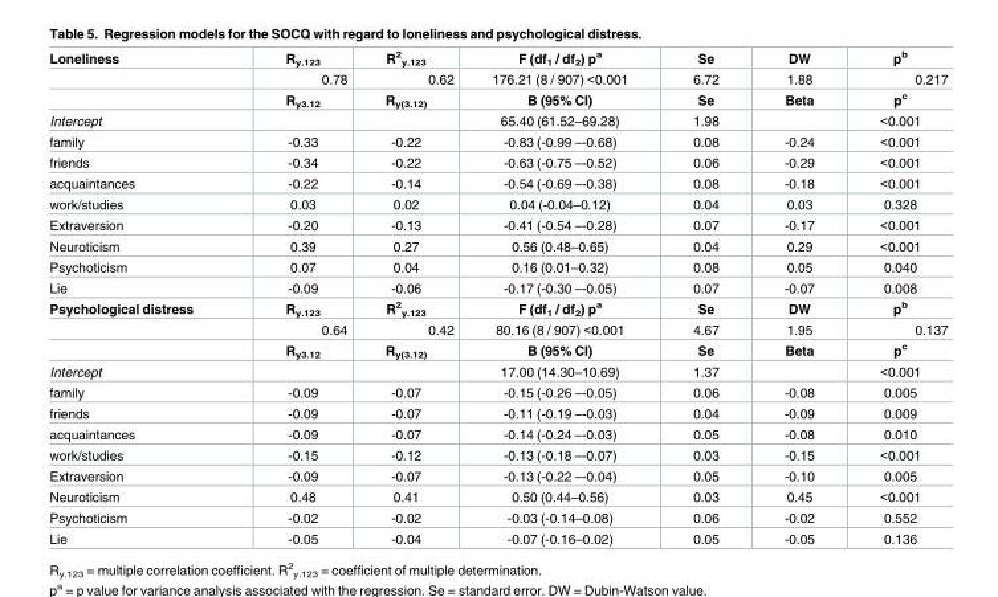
<table><tbody><tr><td rowspan="3">Loneliness</td><td>R<sub>y.123</sub></td><td>R<sup>2</sup> <sub>y.123</sub></td><td>F (df<sub>1</sub> / df<sub>2</sub>) p<sup>a</sup></td><td>Se</td><td>DW</td><td>p<sup>b</sup></td></tr><tr><td>0.78</td><td>0.62</td><td>176.21 (8 / 907) &lt;0.001</td><td>6.72</td><td>1.88</td><td>0.217</td></tr><tr><td>R<sub>y3.12</sub></td><td>R<sub>y(3.12)</sub></td><td>B (95% CI)</td><td>Se</td><td>Beta</td><td>p<sup>c</sup></td></tr><tr><td>Intercept</td><td></td><td></td><td>65.40 (61.52–69.28)</td><td>1.98</td><td></td><td>&lt;0.001</td></tr><tr><td>family</td><td>-0.33</td><td>-0.22</td><td>-0.83 (-0.99 –-0.68)</td><td>0.08</td><td>-0.24</td><td>&lt;0.001</td></tr><tr><td>friends</td><td>-0.34</td><td>-0.22</td><td>-0.63 (-0.75 –-0.52)</td><td>0.06</td><td>-0.29</td><td>&lt;0.001</td></tr><tr><td>acquaintances</td><td>-0.22</td><td>-0.14</td><td>-0.54 (-0.69 –-0.38)</td><td>0.08</td><td>-0.18</td><td>&lt;0.001</td></tr><tr><td>work/studies</td><td>0.03</td><td>0.02</td><td>0.04 (-0.04–0.12)</td><td>0.04</td><td>0.03</td><td>0.328</td></tr><tr><td>Extraversion</td><td>-0.20</td><td>-0.13</td><td>-0.41 (-0.54 –-0.28)</td><td>0.07</td><td>-0.17</td><td>&lt;0.001</td></tr><tr><td>Neuroticism</td><td>0.39</td><td>0.27</td><td>0.56 (0.48–0.65)</td><td>0.04</td><td>0.29</td><td>&lt;0.001</td></tr><tr><td>Psychoticism</td><td>0.07</td><td>0.04</td><td>0.16 (0.01–0.32)</td><td>0.08</td><td>0.05</td><td>0.040</td></tr><tr><td>Lie</td><td>-0.09</td><td>-0.06</td><td>-0.17 (-0.30 –-0.05)</td><td>0.07</td><td>-0.07</td><td>0.008</td></tr><tr><td rowspan="3">Psychological distress</td><td>R<sub>y.123</sub></td><td>R<sup>2</sup> <sub>y.123</sub></td><td>F (df<sub>1</sub> / df<sub>2</sub>) p<sup>a</sup></td><td>Se</td><td>DW</td><td>p<sup>b</sup></td></tr><tr><td>0.64</td><td>0.42</td><td>80.16 (8 / 907) &lt;0.001</td><td>4.67</td><td>1.95</td><td>0.137</td></tr><tr><td>R<sub>y3.12</sub></td><td>R<sub>y(3.12)</sub></td><td>B (95% CI)</td><td>Se</td><td>Beta</td><td>p<sup>c</sup></td></tr><tr><td>Intercept</td><td></td><td></td><td>17.00 (14.30–10.69)</td><td>1.37</td><td></td><td>&lt;0.001</td></tr><tr><td>family</td><td>-0.09</td><td>-0.07</td><td>-0.15 (-0.26 –-0.05)</td><td>0.06</td><td>-0.08</td><td>0.005</td></tr><tr><td>friends</td><td>-0.09</td><td>-0.07</td><td>-0.11 (-0.19 –-0.03)</td><td>0.04</td><td>-0.09</td><td>0.009</td></tr><tr><td>acquaintances</td><td>-0.09</td><td>-0.07</td><td>-0.14 (-0.24 –-0.03)</td><td>0.05</td><td>-0.08</td><td>0.010</td></tr><tr><td>work/studies</td><td>-0.15</td><td>-0.12</td><td>-0.13 (-0.18 –-0.07)</td><td>0.03</td><td>-0.15</td><td>&lt;0.001</td></tr><tr><td>Extraversion</td><td>-0.09</td><td>-0.07</td><td>-0.13 (-0.22 –-0.04)</td><td>0.05</td><td>-0.10</td><td>0.005</td></tr><tr><td>Neuroticism</td><td>0.48</td><td>0.41</td><td>0.50 (0.44–0.56)</td><td>0.03</td><td>0.45</td><td>&lt;0.001</td></tr><tr><td>Psychoticism</td><td>-0.02</td><td>-0.02</td><td>-0.03 (-0.14–0.08)</td><td>0.06</td><td>-0.02</td><td>0.552</td></tr><tr><td>Lie</td><td>-0.05</td><td>-0.04</td><td>-0.07 (-0.16–0.02)</td><td>0.05</td><td>-0.05</td><td>0.136</td></tr></tbody></table>